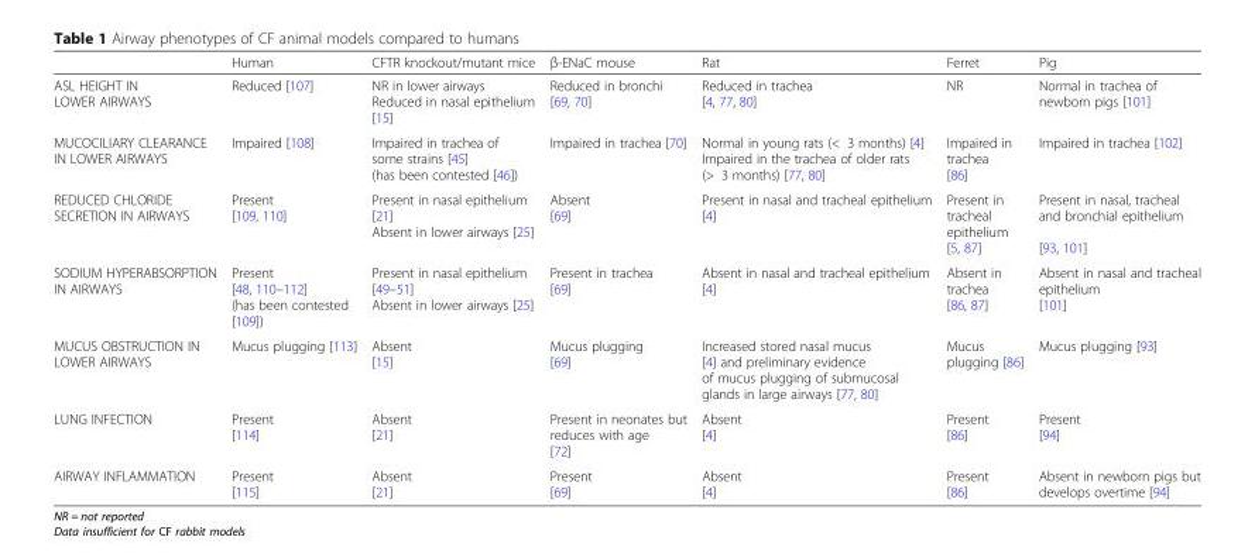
<table><thead><tr><td></td><td>Human</td><td>CFTR knockout/mutant mice</td><td>β-ENaC mouse</td><td>Rat</td><td>Ferret</td><td>Pig</td></tr></thead><tbody><tr><td>ASL HEIGHT IN LOWER AIRWAYS</td><td>Reduced [107]</td><td>NR in lower airways Reduced in nasal epithelium [15]</td><td>Reduced in bronchi [69, 70]</td><td>Reduced in trachea [4, 77, 80]</td><td>NR</td><td>Normal in trachea of newborn pigs [101]</td></tr><tr><td>MUCOCILIARY CLEARANCE IN LOWER AIRWAYS</td><td>Impaired [108]</td><td>Impaired in trachea of some strains [45] (has been contested [46])</td><td>Impaired in trachea [70]</td><td>Normal in young rats (&lt; 3 months) [4] Impaired in the trachea of older rats (&gt; 3 months) [77, 80]</td><td>Impaired in trachea [86]</td><td>Impaired in trachea [102]</td></tr><tr><td>REDUCED CHLORIDE SECRETION IN AIRWAYS</td><td>Present [109, 110]</td><td>Present in nasal epithelium [21] Absent in lower airways [25]</td><td>Absent [69]</td><td>Present in nasal and tracheal epithelium [4]</td><td>Present in tracheal epithelium [5, 87]</td><td>Present in nasal, tracheal and bronchial epithelium [93, 101]</td></tr><tr><td>SODIUM HYPERABSORPTION IN AIRWAYS</td><td>Present [48, 110–112] (has been contested [109])</td><td>Present in nasal epithelium [49–51] Absent in lower airways [25]</td><td>Present in trachea [69]</td><td>Absent in nasal and tracheal epithelium [4]</td><td>Absent in trachea [86, 87]</td><td>Absent in nasal and tracheal epithelium [101]</td></tr><tr><td>MUCUS OBSTRUCTION IN LOWER AIRWAYS</td><td>Mucus plugging [113]</td><td>Absent [15]</td><td>Mucus plugging [69]</td><td>Increased stored nasal mucus [4] and preliminary evidence of mucus plugging of submucosal glands in large airways [77, 80]</td><td>Mucus plugging [86]</td><td>Mucus plugging [93]</td></tr><tr><td>LUNG INFECTION</td><td>Present [114]</td><td>Absent [21]</td><td>Present in neonates but reduces with age [72]</td><td>Absent [4]</td><td>Present [86]</td><td>Present [94]</td></tr><tr><td>AIRWAY INFLAMMATION</td><td>Present [115]</td><td>Absent [21]</td><td>Present [69]</td><td>Absent [4]</td><td>Present [86]</td><td>Absent in newborn pigs but develops overtime [94]</td></tr></tbody></table>